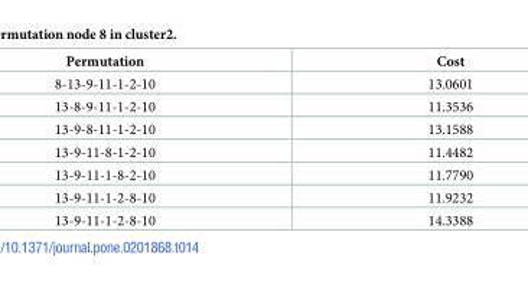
<table><thead><tr><td>Permutation</td><td>Cost</td></tr></thead><tbody><tr><td>8-13-9-11-1-2-10</td><td>13.0601</td></tr><tr><td>13-8-9-11-1-2-10</td><td>11.3536</td></tr><tr><td>13-9-8-11-1-2-10</td><td>13.1588</td></tr><tr><td>13-9-11-8-1-2-10</td><td>11.4482</td></tr><tr><td>13-9-11-1-8-2-10</td><td>11.7790</td></tr><tr><td>13-9-11-1-2-8-10</td><td>11.9232</td></tr><tr><td>13-9-11-1-2-8-10</td><td>14.3388</td></tr></tbody></table>